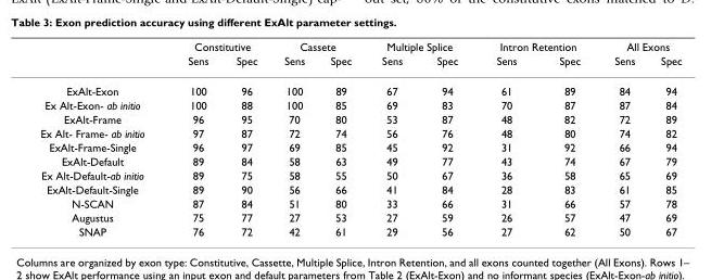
<table><thead><tr><td rowspan="2"></td><td colspan="2">Constitutive</td><td colspan="2">Cassete</td><td colspan="2">Multiple Splice</td><td colspan="2">Intron Retention</td><td colspan="2">All Exons</td></tr><tr><td>Sens</td><td>Spec</td><td>Sens</td><td>Spec</td><td>Sens</td><td>Spec</td><td>Sens</td><td>Spec</td><td>Sens</td><td>Spec</td></tr></thead><tbody><tr><td>ExAlt-Exon</td><td>100</td><td>96</td><td>100</td><td>89</td><td>67</td><td>94</td><td>61</td><td>89</td><td>84</td><td>94</td></tr><tr><td>Ex Alt-Exon- ab initio</td><td>100</td><td>88</td><td>100</td><td>85</td><td>69</td><td>83</td><td>70</td><td>87</td><td>87</td><td>84</td></tr><tr><td>ExAlt-Frame</td><td>96</td><td>95</td><td>70</td><td>80</td><td>53</td><td>87</td><td>48</td><td>82</td><td>72</td><td>89</td></tr><tr><td>Ex Alt- Frame- ab initio</td><td>97</td><td>87</td><td>72</td><td>74</td><td>56</td><td>76</td><td>48</td><td>80</td><td>74</td><td>82</td></tr><tr><td>ExAlt-Frame-Single</td><td>96</td><td>97</td><td>69</td><td>85</td><td>45</td><td>92</td><td>31</td><td>92</td><td>66</td><td>94</td></tr><tr><td>ExAlt-Default</td><td>89</td><td>84</td><td>58</td><td>63</td><td>49</td><td>77</td><td>43</td><td>74</td><td>67</td><td>79</td></tr><tr><td>Ex Alt-Default-ab initio</td><td>89</td><td>75</td><td>58</td><td>55</td><td>50</td><td>67</td><td>36</td><td>58</td><td>65</td><td>69</td></tr><tr><td>ExAlt-Default-Single</td><td>89</td><td>90</td><td>56</td><td>66</td><td>41</td><td>84</td><td>28</td><td>83</td><td>61</td><td>85</td></tr><tr><td>N-SCAN</td><td>87</td><td>84</td><td>51</td><td>80</td><td>33</td><td>66</td><td>31</td><td>66</td><td>57</td><td>78</td></tr><tr><td>Augustus</td><td>75</td><td>77</td><td>27</td><td>53</td><td>27</td><td>59</td><td>26</td><td>57</td><td>47</td><td>69</td></tr><tr><td>SNAP</td><td>76</td><td>72</td><td>42</td><td>61</td><td>29</td><td>56</td><td>27</td><td>62</td><td>50</td><td>67</td></tr></tbody></table>